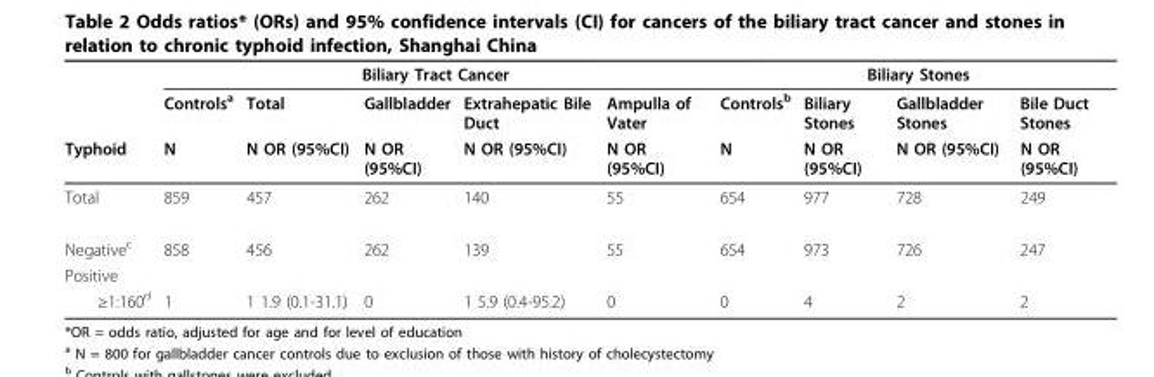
<table><thead><tr><td rowspan="3">Typhoid</td><td colspan="5">Biliary Tract Cancer</td><td colspan="4">Biliary Stones</td></tr><tr><td rowspan="2">Controls<sup>a</sup> N</td><td rowspan="2">Total N OR (95%CI)</td><td rowspan="2">Gallbladder N OR (95%CI)</td><td rowspan="2">Extrahepatic Bile Duct N OR (95%CI)</td><td rowspan="2">Ampulla of Vater N OR (95%CI)</td><td rowspan="2">Controls<sup>b</sup> N</td><td rowspan="2">Biliary Stones N OR (95%CI)</td><td rowspan="2">Gallbladder Stones N OR (95%CI)</td><td rowspan="2">Bile Duct Stones N OR (95%CI)</td></tr><tr></tr></thead><tbody><tr><td>Total</td><td>859</td><td>457</td><td>262</td><td>140</td><td>55</td><td>654</td><td>977</td><td>728</td><td>249</td></tr><tr><td>Negative<sup>c</sup></td><td>858</td><td>456</td><td>262</td><td>139</td><td>55</td><td>654</td><td>973</td><td>726</td><td>247</td></tr><tr><td colspan="10">Positive</td></tr><tr><td>≥1:160<sup>d</sup></td><td>1</td><td>1 1.9 (0.1-31.1)</td><td>0</td><td>1 5.9 (0.4-95.2)</td><td>0</td><td>0</td><td>4</td><td>2</td><td>2</td></tr></tbody></table>